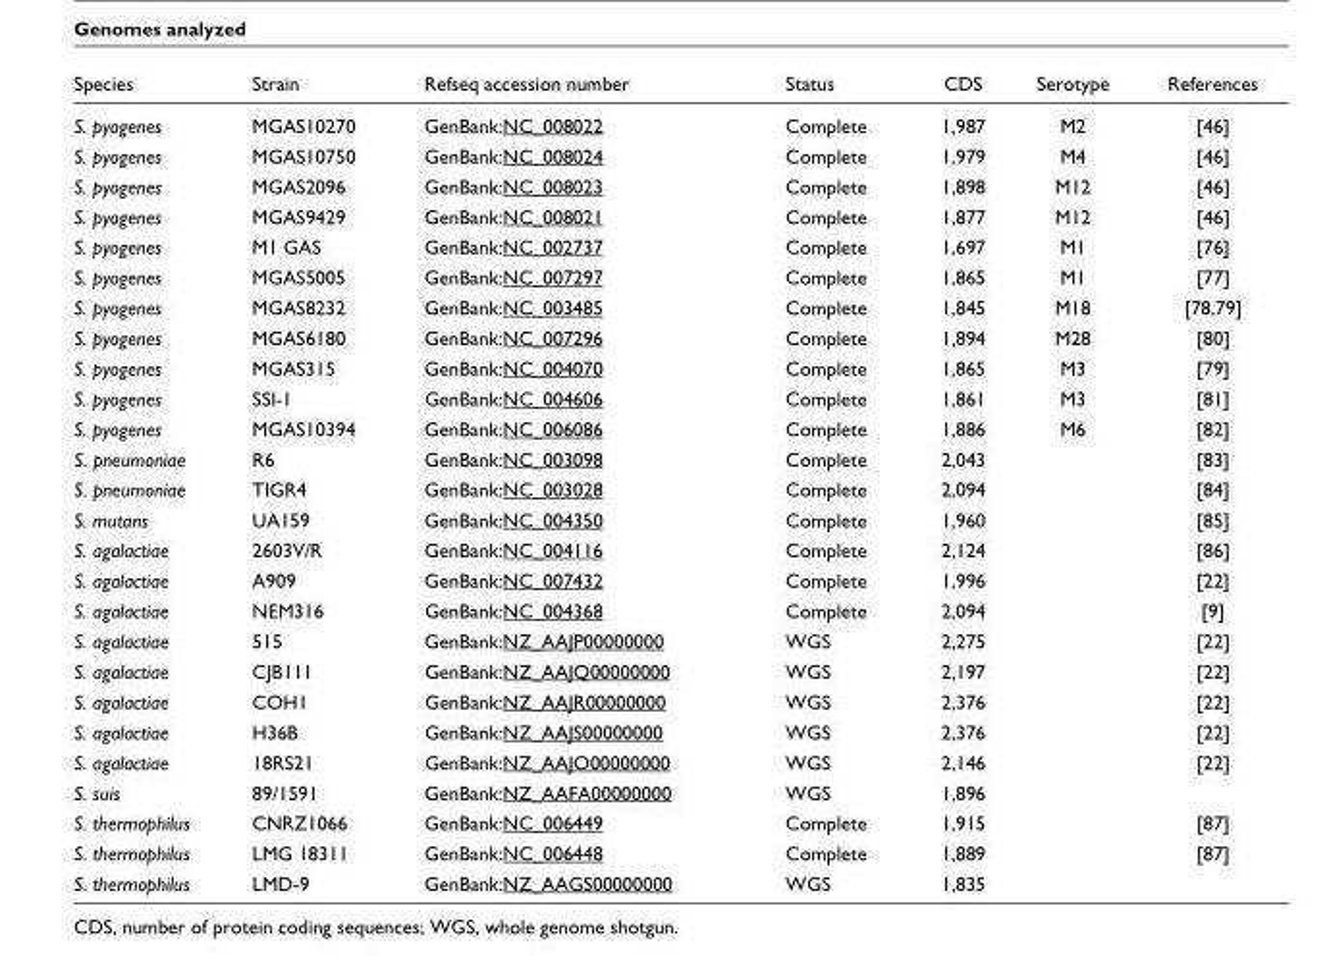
<table><thead><tr><td>Species</td><td>Strain</td><td>Refseq accession number</td><td>Status</td><td>CDS</td><td>Serotype</td><td>References</td></tr></thead><tbody><tr><td>S. pyogenes</td><td>MGAS10270</td><td>GenBank:NC_008022</td><td>Complete</td><td>1,987</td><td>M2</td><td>[46]</td></tr><tr><td>S. pyogenes</td><td>MGAS10750</td><td>GenBank:NC_008024</td><td>Complete</td><td>1,979</td><td>M4</td><td>[46]</td></tr><tr><td>S. pyogenes</td><td>MGAS2096</td><td>GenBank:NC_008023</td><td>Complete</td><td>1,898</td><td>M12</td><td>[46]</td></tr><tr><td>S. pyogenes</td><td>MGAS9429</td><td>GenBank:NC_008021</td><td>Complete</td><td>1,877</td><td>M12</td><td>[46]</td></tr><tr><td>S. pyogenes</td><td>M1 GAS</td><td>GenBank:NC_002737</td><td>Complete</td><td>1,697</td><td>M1</td><td>[76]</td></tr><tr><td>S. pyogenes</td><td>MGAS5005</td><td>GenBank:NC_007297</td><td>Complete</td><td>1,865</td><td>M1</td><td>[77]</td></tr><tr><td>S. pyogenes</td><td>MGAS8232</td><td>GenBank:NC_003485</td><td>Complete</td><td>1,845</td><td>M18</td><td>[78,79]</td></tr><tr><td>S. pyogenes</td><td>MGAS6180</td><td>GenBank:NC_007296</td><td>Complete</td><td>1,894</td><td>M28</td><td>[80]</td></tr><tr><td>S. pyogenes</td><td>MGAS315</td><td>GenBank:NC_004070</td><td>Complete</td><td>1,865</td><td>M3</td><td>[79]</td></tr><tr><td>S. pyogenes</td><td>SSI-1</td><td>GenBank:NC_004606</td><td>Complete</td><td>1,861</td><td>M3</td><td>[81]</td></tr><tr><td>S. pyogenes</td><td>MGAS10394</td><td>GenBank:NC_006086</td><td>Complete</td><td>1,886</td><td>M6</td><td>[82]</td></tr><tr><td>S. pneumoniae</td><td>R6</td><td>GenBank:NC_003098</td><td>Complete</td><td>2,043</td><td></td><td>[83]</td></tr><tr><td>S. pneumoniae</td><td>TIGR4</td><td>GenBank:NC_003028</td><td>Complete</td><td>2,094</td><td></td><td>[84]</td></tr><tr><td>S. mutans</td><td>UA159</td><td>GenBank:NC_004350</td><td>Complete</td><td>1,960</td><td></td><td>[85]</td></tr><tr><td>S. agalactiae</td><td>2603V/R</td><td>GenBank:NC_004116</td><td>Complete</td><td>2,124</td><td></td><td>[86]</td></tr><tr><td>S. agalactiae</td><td>A909</td><td>GenBank:NC_007432</td><td>Complete</td><td>1,996</td><td></td><td>[22]</td></tr><tr><td>S. agalactiae</td><td>NEM316</td><td>GenBank:NC_004368</td><td>Complete</td><td>2,094</td><td></td><td>[9]</td></tr><tr><td>S. agalactiae</td><td>515</td><td>GenBank:NZ_AAJP00000000</td><td>WGS</td><td>2,275</td><td></td><td>[22]</td></tr><tr><td>S. agalactiae</td><td>CJB111</td><td>GenBank:NZ_AAJQ00000000</td><td>WGS</td><td>2,197</td><td></td><td>[22]</td></tr><tr><td>S. agalactiae</td><td>COH1</td><td>GenBank:NZ_AAJR00000000</td><td>WGS</td><td>2,376</td><td></td><td>[22]</td></tr><tr><td>S. agalactiae</td><td>H36B</td><td>GenBank:NZ_AAJS00000000</td><td>WGS</td><td>2,376</td><td></td><td>[22]</td></tr><tr><td>S. agalactiae</td><td>18RS21</td><td>GenBank:NZ_AAJO00000000</td><td>WGS</td><td>2,146</td><td></td><td>[22]</td></tr><tr><td>S. suis</td><td>89/1591</td><td>GenBank:NZ_AAFA00000000</td><td>WGS</td><td>1,896</td><td></td><td></td></tr><tr><td>S. thermophilus</td><td>CNRZ1066</td><td>GenBank:NC_006449</td><td>Complete</td><td>1,915</td><td></td><td>[87]</td></tr><tr><td>S. thermophilus</td><td>LMG 18311</td><td>GenBank:NC_006448</td><td>Complete</td><td>1,889</td><td></td><td>[87]</td></tr><tr><td>S. thermophilus</td><td>LMD-9</td><td>GenBank:NZ_AAGS00000000</td><td>WGS</td><td>1,835</td><td></td><td></td></tr></tbody></table>